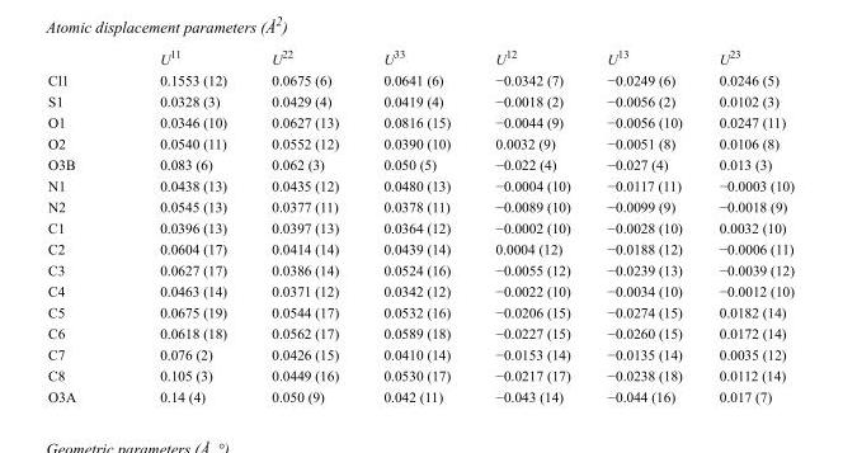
<table><thead><tr><td></td><td>U<sup>11</sup></td><td>U<sup>22</sup></td><td>U<sup>33</sup></td><td>U<sup>12</sup></td><td>U<sup>13</sup></td><td>U<sup>23</sup></td></tr></thead><tbody><tr><td>Cl1</td><td>0.1553 (12)</td><td>0.0675 (6)</td><td>0.0641 (6)</td><td>−0.0342 (7)</td><td>−0.0249 (6)</td><td>0.0246 (5)</td></tr><tr><td>S1</td><td>0.0328 (3)</td><td>0.0429 (4)</td><td>0.0419 (4)</td><td>−0.0018 (2)</td><td>−0.0056 (2)</td><td>0.0102 (3)</td></tr><tr><td>O1</td><td>0.0346 (10)</td><td>0.0627 (13)</td><td>0.0816 (15)</td><td>−0.0044 (9)</td><td>−0.0056 (10)</td><td>0.0247 (11)</td></tr><tr><td>O2</td><td>0.0540 (11)</td><td>0.0552 (12)</td><td>0.0390 (10)</td><td>0.0032 (9)</td><td>−0.0051 (8)</td><td>0.0106 (8)</td></tr><tr><td>O3B</td><td>0.083 (6)</td><td>0.062 (3)</td><td>0.050 (5)</td><td>−0.022 (4)</td><td>−0.027 (4)</td><td>0.013 (3)</td></tr><tr><td>N1</td><td>0.0438 (13)</td><td>0.0435 (12)</td><td>0.0480 (13)</td><td>−0.0004 (10)</td><td>−0.0117 (11)</td><td>−0.0003 (10)</td></tr><tr><td>N2</td><td>0.0545 (13)</td><td>0.0377 (11)</td><td>0.0378 (11)</td><td>−0.0089 (10)</td><td>−0.0099 (9)</td><td>−0.0018 (9)</td></tr><tr><td>C1</td><td>0.0396 (13)</td><td>0.0397 (13)</td><td>0.0364 (12)</td><td>−0.0002 (10)</td><td>−0.0028 (10)</td><td>0.0032 (10)</td></tr><tr><td>C2</td><td>0.0604 (17)</td><td>0.0414 (14)</td><td>0.0439 (14)</td><td>0.0004 (12)</td><td>−0.0188 (12)</td><td>−0.0006 (11)</td></tr><tr><td>C3</td><td>0.0627 (17)</td><td>0.0386 (14)</td><td>0.0524 (16)</td><td>−0.0055 (12)</td><td>−0.0239 (13)</td><td>−0.0039 (12)</td></tr><tr><td>C4</td><td>0.0463 (14)</td><td>0.0371 (12)</td><td>0.0342 (12)</td><td>−0.0022 (10)</td><td>−0.0034 (10)</td><td>−0.0012 (10)</td></tr><tr><td>C5</td><td>0.0675 (19)</td><td>0.0544 (17)</td><td>0.0532 (16)</td><td>−0.0206 (15)</td><td>−0.0274 (15)</td><td>0.0182 (14)</td></tr><tr><td>C6</td><td>0.0618 (18)</td><td>0.0562 (17)</td><td>0.0589 (18)</td><td>−0.0227 (15)</td><td>−0.0260 (15)</td><td>0.0172 (14)</td></tr><tr><td>C7</td><td>0.076 (2)</td><td>0.0426 (15)</td><td>0.0410 (14)</td><td>−0.0153 (14)</td><td>−0.0135 (14)</td><td>0.0035 (12)</td></tr><tr><td>C8</td><td>0.105 (3)</td><td>0.0449 (16)</td><td>0.0530 (17)</td><td>−0.0217 (17)</td><td>−0.0238 (18)</td><td>0.0112 (14)</td></tr><tr><td>O3A</td><td>0.14 (4)</td><td>0.050 (9)</td><td>0.042 (11)</td><td>−0.043 (14)</td><td>−0.044 (16)</td><td>0.017 (7)</td></tr></tbody></table>